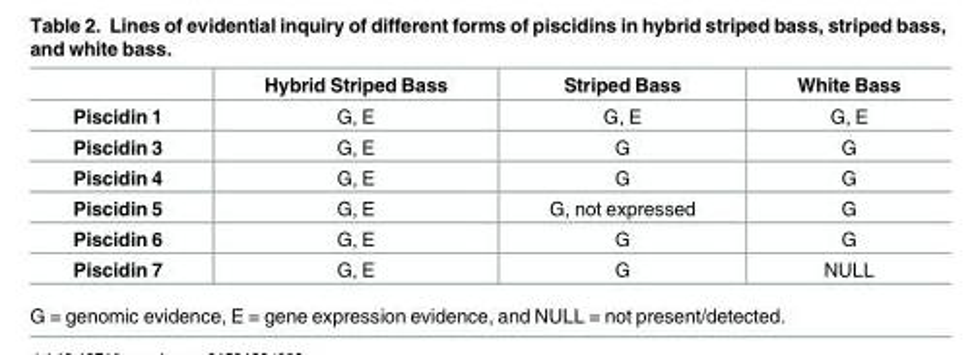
<table><thead><tr><td></td><td>Hybrid Striped Bass</td><td>Striped Bass</td><td>White Bass</td></tr></thead><tbody><tr><td>Piscidin 1</td><td>G, E</td><td>G, E</td><td>G, E</td></tr><tr><td>Piscidin 3</td><td>G, E</td><td>G</td><td>G</td></tr><tr><td>Piscidin 4</td><td>G, E</td><td>G</td><td>G</td></tr><tr><td>Piscidin 5</td><td>G, E</td><td>G, not expressed</td><td>G</td></tr><tr><td>Piscidin 6</td><td>G, E</td><td>G</td><td>G</td></tr><tr><td>Piscidin 7</td><td>G, E</td><td>G</td><td>NULL</td></tr></tbody></table>